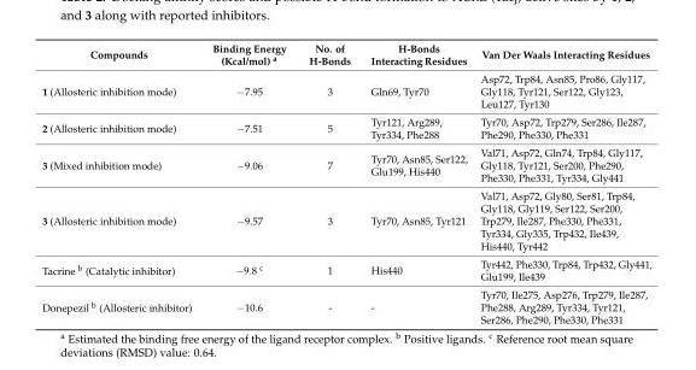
<table><thead><tr><td>Compounds</td><td>Binding Energy (Kcal/mol) <sup>a</sup></td><td>No. of H-Bonds</td><td>H-Bonds Interacting Residues</td><td>Van Der Waals Interacting Residues</td></tr></thead><tbody><tr><td>1 (Allosteric inhibition mode)</td><td>−7.95</td><td>3</td><td>Gln69, Tyr70</td><td>Asp72, Trp84, Asn85, Pro86, Gly117, Gly118, Tyr121, Ser122, Gly123, Leu127, Tyr130</td></tr><tr><td>2 (Allosteric inhibition mode)</td><td>−7.51</td><td>5</td><td>Tyr121, Arg289, Tyr334, Phe288</td><td>Tyr70, Asp72, Trp279, Ser286, Ile287, Phe290, Phe330, Phe331</td></tr><tr><td>3 (Mixed inhibition mode)</td><td>−9.06</td><td>7</td><td>Tyr70, Asn85, Ser122, Glu199, His440</td><td>Val71, Asp72, Gln74, Trp84, Gly117, Gly118, Tyr121, Ser200, Phe290, Phe330, Phe331, Tyr334, Gly441</td></tr><tr><td>3 (Allosteric inhibition mode)</td><td>−9.57</td><td>3</td><td>Tyr70, Asn85, Tyr121</td><td>Val71, Asp72, Gly80, Ser81, Trp84, Gly118, Gly119, Ser122, Ser200, Trp279, Ile287, Phe330, Phe331, Tyr334, Gly335, Trp432, Ile439, His440, Tyr442</td></tr><tr><td>Tacrine <sup>b</sup> (Catalytic inhibitor)</td><td>−9.8 <sup>c</sup></td><td>1</td><td>His440</td><td>Tyr442, Phe330, Trp84, Trp432, Gly441, Glu199, Ile439</td></tr><tr><td>Donepezil <sup>b</sup> (Allosteric inhibitor)</td><td>−10.6</td><td>-</td><td>-</td><td>Tyr70, Ile275, Asp276, Trp279, Ile287, Phe288, Arg289, Tyr334, Tyr121, Ser286, Phe290, Phe330, Phe331</td></tr></tbody></table>